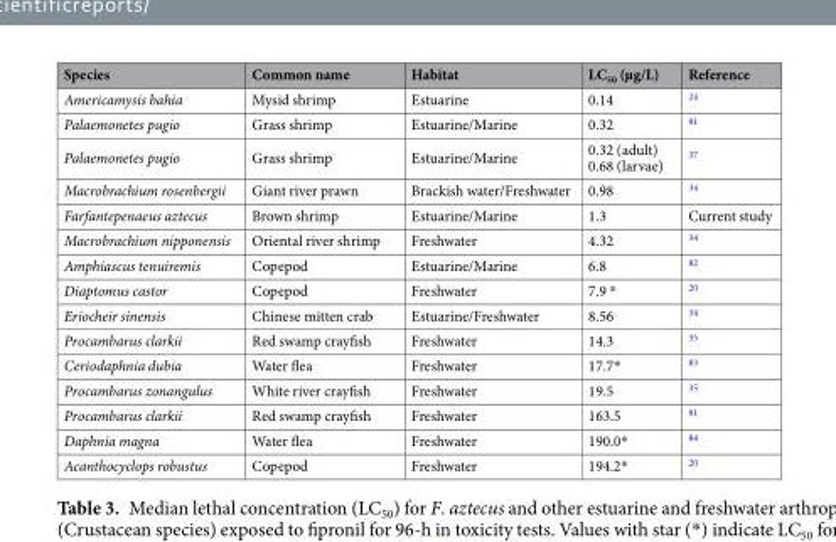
<table><thead><tr><td>Species</td><td>Common name</td><td>Habitat</td><td>LC<sub>50</sub> (µg/L)</td><td>Reference</td></tr></thead><tbody><tr><td>Americamysis bahia</td><td>Mysid shrimp</td><td>Estuarine</td><td>0.14</td><td><sup>24</sup></td></tr><tr><td>Palaemonetes pugio</td><td>Grass shrimp</td><td>Estuarine/Marine</td><td>0.32</td><td><sup>81</sup></td></tr><tr><td>Palaemonetes pugio</td><td>Grass shrimp</td><td>Estuarine/Marine</td><td>0.32 (adult) 0.68 (larvae)</td><td><sup>37</sup></td></tr><tr><td>Macrobrachium rosenbergii</td><td>Giant river prawn</td><td>Brackish water/Freshwater</td><td>0.98</td><td><sup>34</sup></td></tr><tr><td>Farfantepenaeus aztecus</td><td>Brown shrimp</td><td>Estuarine/Marine</td><td>1.3</td><td>Current study</td></tr><tr><td>Macrobrachium nipponensis</td><td>Oriental river shrimp</td><td>Freshwater</td><td>4.32</td><td><sup>34</sup></td></tr><tr><td>Amphiascus tenuiremis</td><td>Copepod</td><td>Estuarine/Marine</td><td>6.8</td><td><sup>82</sup></td></tr><tr><td>Diaptomus castor</td><td>Copepod</td><td>Freshwater</td><td>7.9 *</td><td><sup>20</sup></td></tr><tr><td>Eriocheir sinensis</td><td>Chinese mitten crab</td><td>Estuarine/Freshwater</td><td>8.56</td><td><sup>34</sup></td></tr><tr><td>Procambarus clarkii</td><td>Red swamp crayfish</td><td>Freshwater</td><td>14.3</td><td><sup>35</sup></td></tr><tr><td>Ceriodaphnia dubia</td><td>Water flea</td><td>Freshwater</td><td>17.7*</td><td><sup>83</sup></td></tr><tr><td>Procambarus zonangulus</td><td>White river crayfish</td><td>Freshwater</td><td>19.5</td><td><sup>35</sup></td></tr><tr><td>Procambarus clarkii</td><td>Red swamp crayfish</td><td>Freshwater</td><td>163.5</td><td><sup>81</sup></td></tr><tr><td>Daphnia magna</td><td>Water flea</td><td>Freshwater</td><td>190.0*</td><td><sup>84</sup></td></tr><tr><td>Acanthocyclops robustus</td><td>Copepod</td><td>Freshwater</td><td>194.2*</td><td><sup>20</sup></td></tr></tbody></table>